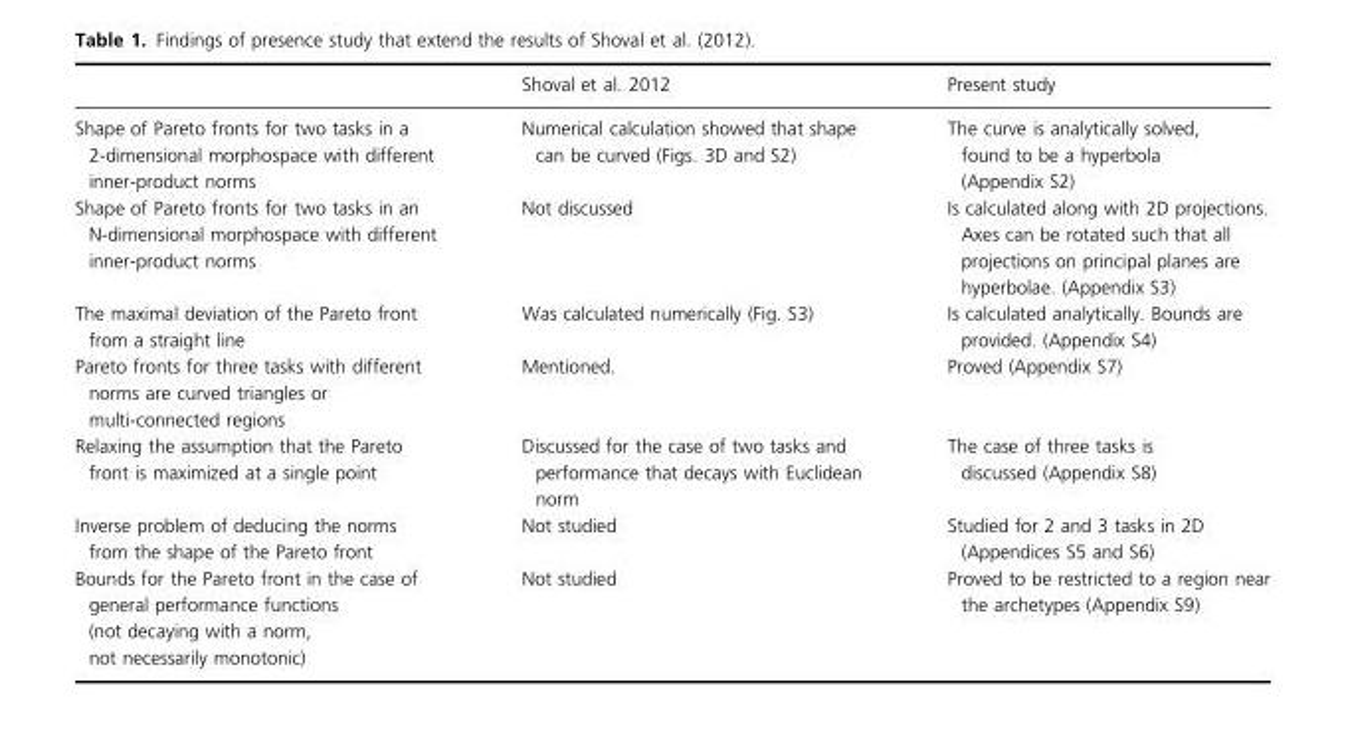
<table><thead><tr><td></td><td>Shoval et al. 2012</td><td>Present study</td></tr></thead><tbody><tr><td>Shape of Pareto fronts for two tasks in a 2-dimensional morphospace with different inner-product norms</td><td>Numerical calculation showed that shape can be curved (Figs. 3D and S2)</td><td>The curve is analytically solved, found to be a hyperbola (Appendix S2)</td></tr><tr><td>Shape of Pareto fronts for two tasks in an N-dimensional morphospace with different inner-product norms</td><td>Not discussed</td><td>Is calculated along with 2D projections. Axes can be rotated such that all projections on principal planes are hyperbolae. (Appendix S3)</td></tr><tr><td>The maximal deviation of the Pareto front from a straight line</td><td>Was calculated numerically (Fig. S3)</td><td>Is calculated analytically. Bounds are provided. (Appendix S4)</td></tr><tr><td>Pareto fronts for three tasks with different norms are curved triangles or multi-connected regions</td><td>Mentioned.</td><td>Proved (Appendix S7)</td></tr><tr><td>Relaxing the assumption that the Pareto front is maximized at a single point</td><td>Discussed for the case of two tasks and performance that decays with Euclidean norm</td><td>The case of three tasks is discussed (Appendix S8)</td></tr><tr><td>Inverse problem of deducing the norms from the shape of the Pareto front</td><td>Not studied</td><td>Studied for 2 and 3 tasks in 2D (Appendices S5 and S6)</td></tr><tr><td>Bounds for the Pareto front in the case of general performance functions (not decaying with a norm, not necessarily monotonic)</td><td>Not studied</td><td>Proved to be restricted to a region near the archetypes (Appendix S9)</td></tr></tbody></table>